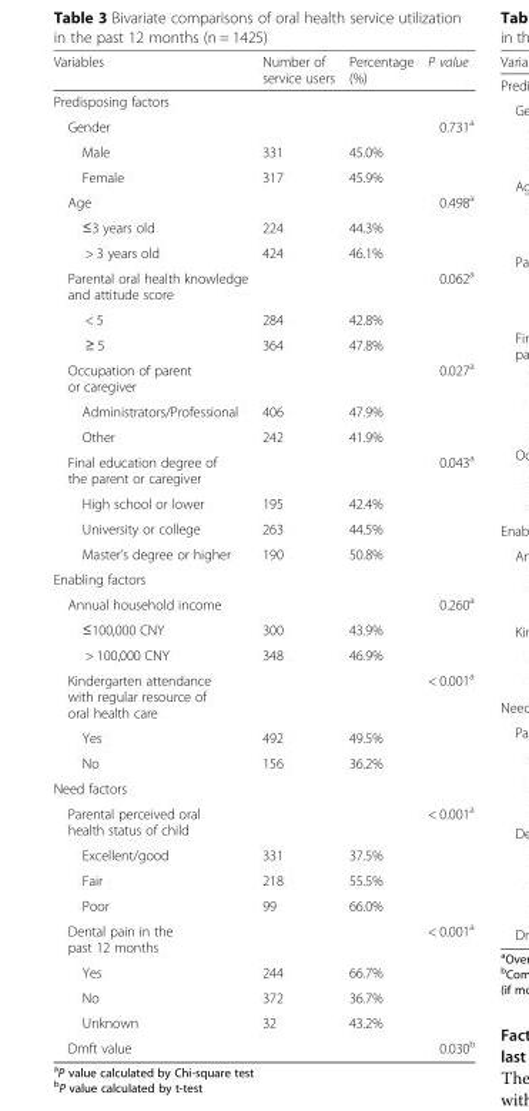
<table><thead><tr><td>Variables</td><td>Number of service users</td><td>Percentage (%)</td><td>P value</td></tr></thead><tbody><tr><td colspan="4">Predisposing factors</td></tr><tr><td>Gender</td><td></td><td></td><td>0.731<sup>a</sup></td></tr><tr><td>Male</td><td>331</td><td>45.0%</td><td></td></tr><tr><td>Female</td><td>317</td><td>45.9%</td><td></td></tr><tr><td>Age</td><td></td><td></td><td>0.498<sup>a</sup></td></tr><tr><td>≤3 years old</td><td>224</td><td>44.3%</td><td></td></tr><tr><td>&gt; 3 years old</td><td>424</td><td>46.1%</td><td></td></tr><tr><td>Parental oral health knowledge and attitude score</td><td></td><td></td><td>0.062<sup>a</sup></td></tr><tr><td>&lt; 5</td><td>284</td><td>42.8%</td><td></td></tr><tr><td>≥ 5</td><td>364</td><td>47.8%</td><td></td></tr><tr><td>Occupation of parent or caregiver</td><td></td><td></td><td>0.027<sup>a</sup></td></tr><tr><td>Administrators/Professional</td><td>406</td><td>47.9%</td><td></td></tr><tr><td>Other</td><td>242</td><td>41.9%</td><td></td></tr><tr><td>Final education degree of the parent or caregiver</td><td></td><td></td><td>0.043<sup>a</sup></td></tr><tr><td>High school or lower</td><td>195</td><td>42.4%</td><td></td></tr><tr><td>University or college</td><td>263</td><td>44.5%</td><td></td></tr><tr><td>Master’s degree or higher</td><td>190</td><td>50.8%</td><td></td></tr><tr><td colspan="4">Enabling factors</td></tr><tr><td>Annual household income</td><td></td><td></td><td>0.260<sup>a</sup></td></tr><tr><td>≤100,000 CNY</td><td>300</td><td>43.9%</td><td></td></tr><tr><td>&gt; 100,000 CNY</td><td>348</td><td>46.9%</td><td></td></tr><tr><td>Kindergarten attendance with regular resource of oral health care</td><td></td><td></td><td>&lt; 0.001<sup>a</sup></td></tr><tr><td>Yes</td><td>492</td><td>49.5%</td><td></td></tr><tr><td>No</td><td>156</td><td>36.2%</td><td></td></tr><tr><td colspan="4">Need factors</td></tr><tr><td>Parental perceived oral health status of child</td><td></td><td></td><td>&lt; 0.001<sup>a</sup></td></tr><tr><td>Excellent/good</td><td>331</td><td>37.5%</td><td></td></tr><tr><td>Fair</td><td>218</td><td>55.5%</td><td></td></tr><tr><td>Poor</td><td>99</td><td>66.0%</td><td></td></tr><tr><td>Dental pain in the past 12 months</td><td></td><td></td><td>&lt; 0.001<sup>a</sup></td></tr><tr><td>Yes</td><td>244</td><td>66.7%</td><td></td></tr><tr><td>No</td><td>372</td><td>36.7%</td><td></td></tr><tr><td>Unknown</td><td>32</td><td>43.2%</td><td></td></tr><tr><td>Dmft value</td><td></td><td></td><td>0.030<sup>b</sup></td></tr></tbody></table>